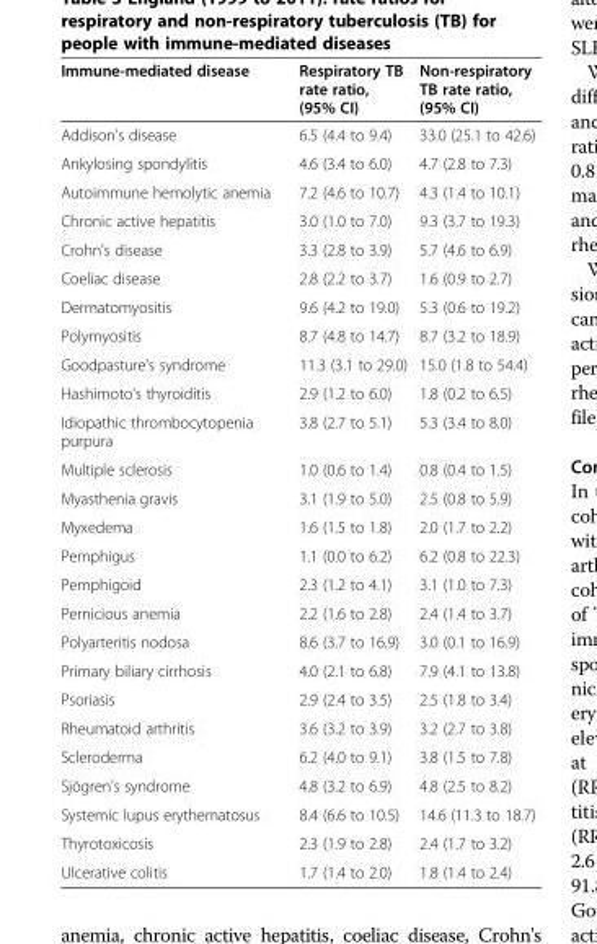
<table><thead><tr><td>Immune-mediated disease</td><td>Respiratory TB rate ratio, (95% CI)</td><td>Non-respiratory TB rate ratio, (95% CI)</td></tr></thead><tbody><tr><td>Addison&#x27;s disease</td><td>6.5 (4.4 to 9.4)</td><td>33.0 (25.1 to 42.6)</td></tr><tr><td>Ankylosing spondylitis</td><td>4.6 (3.4 to 6.0)</td><td>4.7 (2.8 to 7.3)</td></tr><tr><td>Autoimmune hemolytic anemia</td><td>7.2 (4.6 to 10.7)</td><td>4.3 (1.4 to 10.1)</td></tr><tr><td>Chronic active hepatitis</td><td>3.0 (1.0 to 7.0)</td><td>9.3 (3.7 to 19.3)</td></tr><tr><td>Crohn&#x27;s disease</td><td>3.3 (2.8 to 3.9)</td><td>5.7 (4.6 to 6.9)</td></tr><tr><td>Coeliac disease</td><td>2.8 (2.2 to 3.7)</td><td>1.6 (0.9 to 2.7)</td></tr><tr><td>Dermatomyositis</td><td>9.6 (4.2 to 19.0)</td><td>5.3 (0.6 to 19.2)</td></tr><tr><td>Polymyositis</td><td>8.7 (4.8 to 14.7)</td><td>8.7 (3.2 to 18.9)</td></tr><tr><td>Goodpasture&#x27;s syndrome</td><td>11.3 (3.1 to 29.0)</td><td>15.0 (1.8 to 54.4)</td></tr><tr><td>Hashimoto&#x27;s thyroiditis</td><td>2.9 (1.2 to 6.0)</td><td>1.8 (0.2 to 6.5)</td></tr><tr><td>Idiopathic thrombocytopenia purpura</td><td>3.8 (2.7 to 5.1)</td><td>5.3 (3.4 to 8.0)</td></tr><tr><td>Multiple sclerosis</td><td>1.0 (0.6 to 1.4)</td><td>0.8 (0.4 to 1.5)</td></tr><tr><td>Myasthenia gravis</td><td>3.1 (1.9 to 5.0)</td><td>2.5 (0.8 to 5.9)</td></tr><tr><td>Myxedema</td><td>1.6 (1.5 to 1.8)</td><td>2.0 (1.7 to 2.2)</td></tr><tr><td>Pemphigus</td><td>1.1 (0.0 to 6.2)</td><td>6.2 (0.8 to 22.3)</td></tr><tr><td>Pemphigoid</td><td>2.3 (1.2 to 4.1)</td><td>3.1 (1.0 to 7.3)</td></tr><tr><td>Pernicious anemia</td><td>2.2 (1.6 to 2.8)</td><td>2.4 (1.4 to 3.7)</td></tr><tr><td>Polyarteritis nodosa</td><td>8.6 (3.7 to 16.9)</td><td>3.0 (0.1 to 16.9)</td></tr><tr><td>Primary biliary cirrhosis</td><td>4.0 (2.1 to 6.8)</td><td>7.9 (4.1 to 13.8)</td></tr><tr><td>Psoriasis</td><td>2.9 (2.4 to 3.5)</td><td>2.5 (1.8 to 3.4)</td></tr><tr><td>Rheumatoid arthritis</td><td>3.6 (3.2 to 3.9)</td><td>3.2 (2.7 to 3.8)</td></tr><tr><td>Scleroderma</td><td>6.2 (4.0 to 9.1)</td><td>3.8 (1.5 to 7.8)</td></tr><tr><td>Sjögren&#x27;s syndrome</td><td>4.8 (3.2 to 6.9)</td><td>4.8 (2.5 to 8.2)</td></tr><tr><td>Systemic lupus erythematosus</td><td>8.4 (6.6 to 10.5)</td><td>14.6 (11.3 to 18.7)</td></tr><tr><td>Thyrotoxicosis</td><td>2.3 (1.9 to 2.8)</td><td>2.4 (1.7 to 3.2)</td></tr><tr><td>Ulcerative colitis</td><td>1.7 (1.4 to 2.0)</td><td>1.8 (1.4 to 2.4)</td></tr></tbody></table>